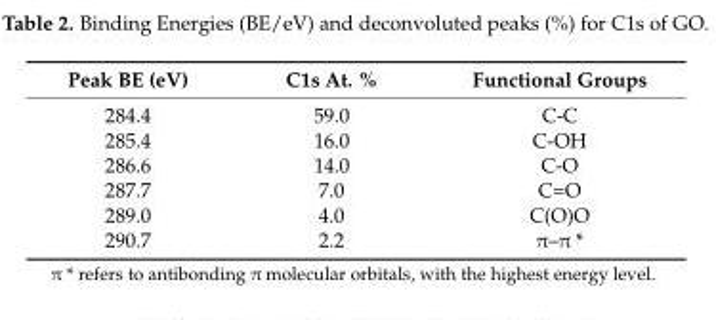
<table><thead><tr><td>Peak BE (eV)</td><td>C1s At. %</td><td>Functional Groups</td></tr></thead><tbody><tr><td>284.4</td><td>59.0</td><td>C-C</td></tr><tr><td>285.4</td><td>16.0</td><td>C-OH</td></tr><tr><td>286.6</td><td>14.0</td><td>C-O</td></tr><tr><td>287.7</td><td>7.0</td><td>C=O</td></tr><tr><td>289.0</td><td>4.0</td><td>C(O)O</td></tr><tr><td>290.7</td><td>2.2</td><td>π–π *</td></tr></tbody></table>